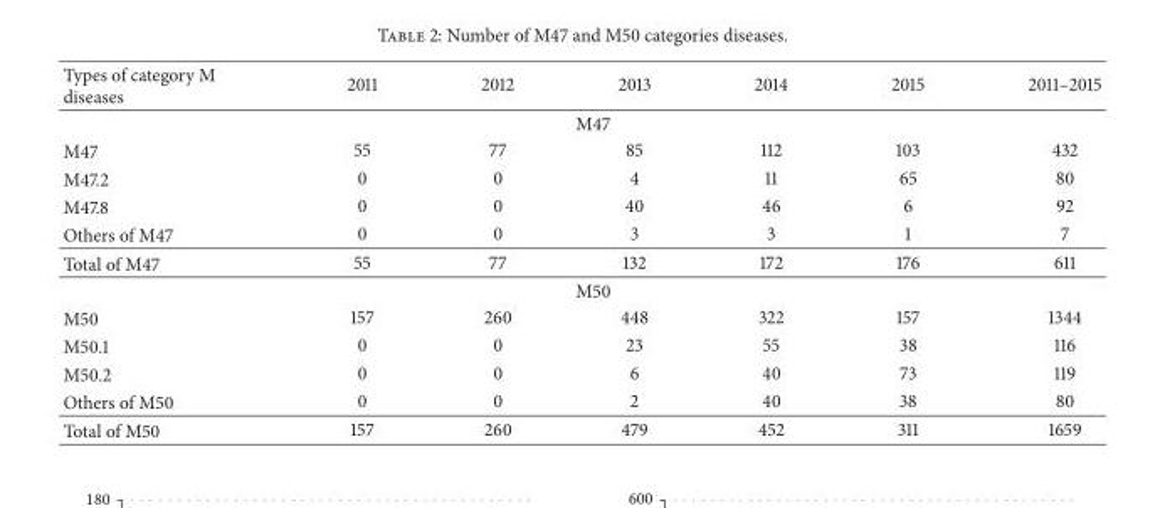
<table><thead><tr><td>Types of category M diseases</td><td>2011</td><td>2012</td><td>2013</td><td>2014</td><td>2015</td><td>2011–2015</td></tr></thead><tbody><tr><td colspan="7">M47</td></tr><tr><td>M47</td><td>55</td><td>77</td><td>85</td><td>112</td><td>103</td><td>432</td></tr><tr><td>M47.2</td><td>0</td><td>0</td><td>4</td><td>11</td><td>65</td><td>80</td></tr><tr><td>M47.8</td><td>0</td><td>0</td><td>40</td><td>46</td><td>6</td><td>92</td></tr><tr><td>Others of M47</td><td>0</td><td>0</td><td>3</td><td>3</td><td>1</td><td>7</td></tr><tr><td>Total of M47</td><td>55</td><td>77</td><td>132</td><td>172</td><td>176</td><td>611</td></tr><tr><td colspan="7">M50</td></tr><tr><td>M50</td><td>157</td><td>260</td><td>448</td><td>322</td><td>157</td><td>1344</td></tr><tr><td>M50.1</td><td>0</td><td>0</td><td>23</td><td>55</td><td>38</td><td>116</td></tr><tr><td>M50.2</td><td>0</td><td>0</td><td>6</td><td>40</td><td>73</td><td>119</td></tr><tr><td>Others of M50</td><td>0</td><td>0</td><td>2</td><td>40</td><td>38</td><td>80</td></tr><tr><td>Total of M50</td><td>157</td><td>260</td><td>479</td><td>452</td><td>311</td><td>1659</td></tr></tbody></table>